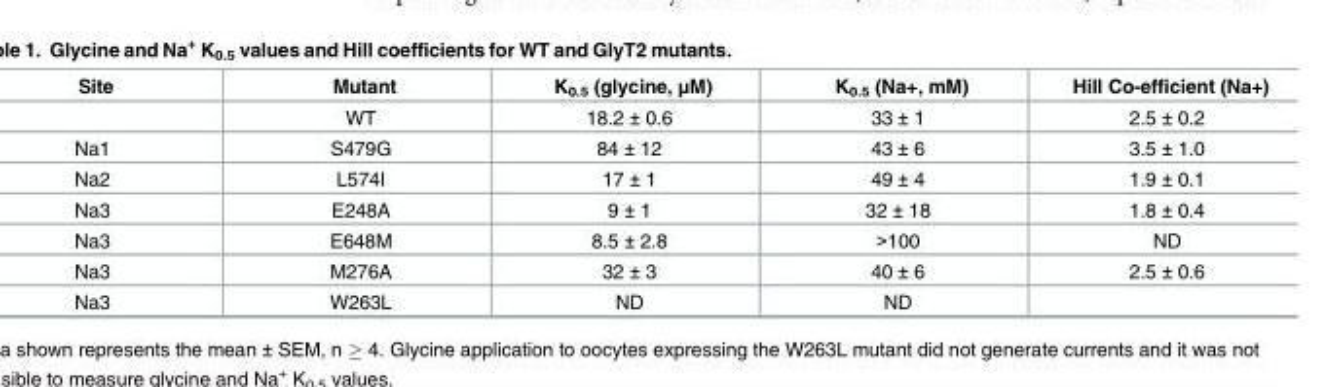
<table><thead><tr><td>Site</td><td>Mutant</td><td>K<sub>0.5</sub> (glycine, μM)</td><td>K<sub>0.5</sub> (Na+, mM)</td><td>Hill Co-efficient (Na+)</td></tr></thead><tbody><tr><td></td><td>WT</td><td>18.2 ± 0.6</td><td>33 ± 1</td><td>2.5 ± 0.2</td></tr><tr><td>Na1</td><td>S479G</td><td>84 ± 12</td><td>43 ± 6</td><td>3.5 ± 1.0</td></tr><tr><td>Na2</td><td>L574I</td><td>17 ± 1</td><td>49 ± 4</td><td>1.9 ± 0.1</td></tr><tr><td>Na3</td><td>E248A</td><td>9 ± 1</td><td>32 ± 18</td><td>1.8 ± 0.4</td></tr><tr><td>Na3</td><td>E648M</td><td>8.5 ± 2.8</td><td>&gt;100</td><td>ND</td></tr><tr><td>Na3</td><td>M276A</td><td>32 ± 3</td><td>40 ± 6</td><td>2.5 ± 0.6</td></tr><tr><td>Na3</td><td>W263L</td><td>ND</td><td>ND</td><td></td></tr></tbody></table>